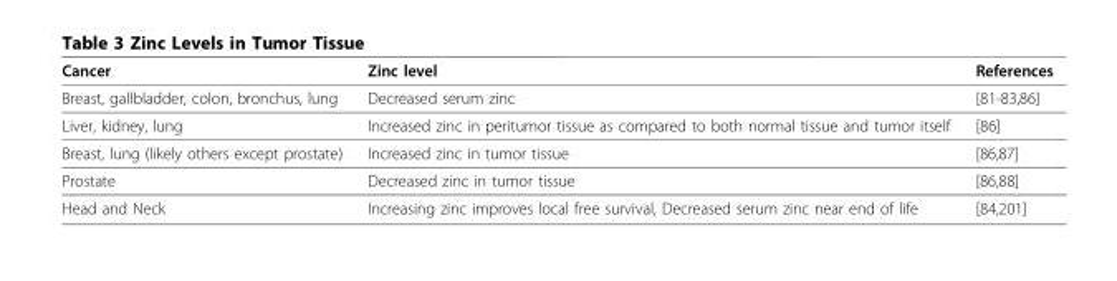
<table><thead><tr><td>Cancer</td><td>Zinc level</td><td>References</td></tr></thead><tbody><tr><td>Breast, gallbladder, colon, bronchus, lung</td><td>Decreased serum zinc</td><td>[81-83,86]</td></tr><tr><td>Liver, kidney, lung</td><td>Increased zinc in peritumor tissue as compared to both normal tissue and tumor itself</td><td>[86]</td></tr><tr><td>Breast, lung (likely others except prostate)</td><td>Increased zinc in tumor tissue</td><td>[86,87]</td></tr><tr><td>Prostate</td><td>Decreased zinc in tumor tissue</td><td>[86,88]</td></tr><tr><td>Head and Neck</td><td>Increasing zinc improves local free survival, Decreased serum zinc near end of life</td><td>[84,201]</td></tr></tbody></table>